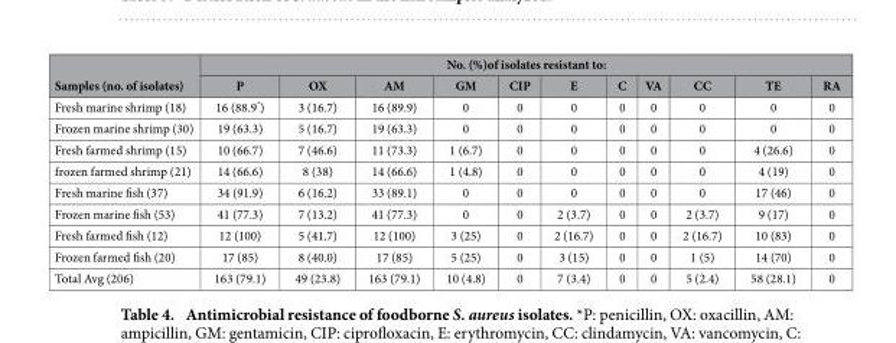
<table><thead><tr><td rowspan="2">Samples (no. of isolates)</td><td colspan="11">No. (%)of isolates resistant to:</td></tr><tr><td>P</td><td>OX</td><td>AM</td><td>GM</td><td>CIP</td><td>E</td><td>C</td><td>VA</td><td>CC</td><td>TE</td><td>RA</td></tr></thead><tbody><tr><td>Fresh marine shrimp (18)</td><td>16 (88.9*)</td><td>3 (16.7)</td><td>16 (89.9)</td><td>0</td><td>0</td><td>0</td><td>0</td><td>0</td><td>0</td><td>0</td><td>0</td></tr><tr><td>Frozen marine shrimp (30)</td><td>19 (63.3)</td><td>5 (16.7)</td><td>19 (63.3)</td><td>0</td><td>0</td><td>0</td><td>0</td><td>0</td><td>0</td><td>0</td><td>0</td></tr><tr><td>Fresh farmed shrimp (15)</td><td>10 (66.7)</td><td>7 (46.6)</td><td>11 (73.3)</td><td>1 (6.7)</td><td>0</td><td>0</td><td>0</td><td>0</td><td>0</td><td>4 (26.6)</td><td>0</td></tr><tr><td>frozen farmed shrimp (21)</td><td>14 (66.6)</td><td>8 (38)</td><td>14 (66.6)</td><td>1 (4.8)</td><td>0</td><td>0</td><td>0</td><td>0</td><td>0</td><td>4 (19)</td><td>0</td></tr><tr><td>Fresh marine fish (37)</td><td>34 (91.9)</td><td>6 (16.2)</td><td>33 (89.1)</td><td>0</td><td>0</td><td>0</td><td>0</td><td>0</td><td>0</td><td>17 (46)</td><td>0</td></tr><tr><td>Frozen marine fish (53)</td><td>41 (77.3)</td><td>7 (13.2)</td><td>41 (77.3)</td><td>0</td><td>0</td><td>2 (3.7)</td><td>0</td><td>0</td><td>2 (3.7)</td><td>9 (17)</td><td>0</td></tr><tr><td>Fresh farmed fish (12)</td><td>12 (100)</td><td>5 (41.7)</td><td>12 (100)</td><td>3 (25)</td><td>0</td><td>2 (16.7)</td><td>0</td><td>0</td><td>2 (16.7)</td><td>10 (83)</td><td>0</td></tr><tr><td>Frozen farmed fish (20)</td><td>17 (85)</td><td>8 (40.0)</td><td>17 (85)</td><td>5 (25)</td><td>0</td><td>3 (15)</td><td>0</td><td>0</td><td>1 (5)</td><td>14 (70)</td><td>0</td></tr><tr><td>Total Avg (206)</td><td>163 (79.1)</td><td>49 (23.8)</td><td>163 (79.1)</td><td>10 (4.8)</td><td>0</td><td>7 (3.4)</td><td>0</td><td>0</td><td>5 (2.4)</td><td>58 (28.1)</td><td>0</td></tr></tbody></table>